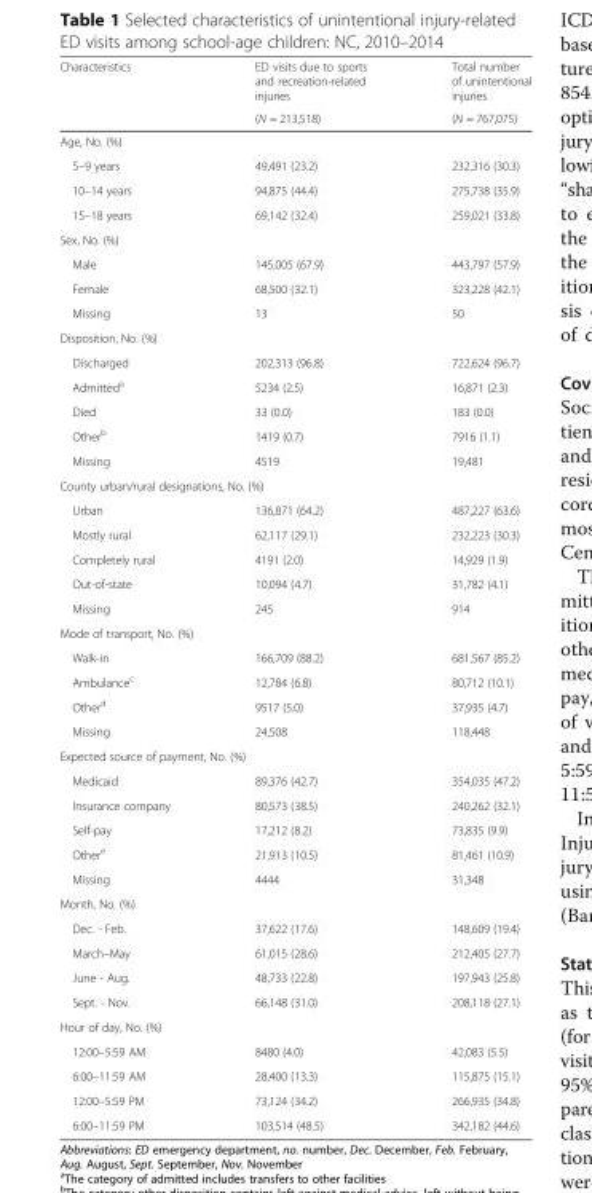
<table><thead><tr><td rowspan="2">Characteristics</td><td rowspan="2">ED visits due to sports and recreation-related injuries (N = 213,518)</td><td rowspan="2">Total number of unintentional injuries (N = 767,075)</td></tr><tr></tr></thead><tbody><tr><td colspan="3">Age, No. (%)</td></tr><tr><td>5–9 years</td><td>49,491 (23.2)</td><td>232,316 (30.3)</td></tr><tr><td>10–14 years</td><td>94,875 (44.4)</td><td>275,738 (35.9)</td></tr><tr><td>15–18 years</td><td>69,142 (32.4)</td><td>259,021 (33.8)</td></tr><tr><td colspan="3">Sex, No. (%)</td></tr><tr><td>Male</td><td>145,005 (67.9)</td><td>443,797 (57.9)</td></tr><tr><td>Female</td><td>68,500 (32.1)</td><td>323,228 (42.1)</td></tr><tr><td>Missing</td><td>13</td><td>50</td></tr><tr><td colspan="3">Disposition, No. (%)</td></tr><tr><td>Discharged</td><td>202,313 (96.8)</td><td>722,624 (96.7)</td></tr><tr><td>Admitted<sup>a</sup></td><td>5234 (2.5)</td><td>16,871 (2.3)</td></tr><tr><td>Died</td><td>33 (0.0)</td><td>183 (0.0)</td></tr><tr><td>Other<sup>b</sup></td><td>1419 (0.7)</td><td>7916 (1.1)</td></tr><tr><td>Missing</td><td>4519</td><td>19,481</td></tr><tr><td colspan="3">County urban/rural designations, No. (%)</td></tr><tr><td>Urban</td><td>136,871 (64.2)</td><td>487,227 (63.6)</td></tr><tr><td>Mostly rural</td><td>62,117 (29.1)</td><td>232,223 (30.3)</td></tr><tr><td>Completely rural</td><td>4191 (2.0)</td><td>14,929 (1.9)</td></tr><tr><td>Out-of-state</td><td>10,094 (4.7)</td><td>31,782 (4.1)</td></tr><tr><td>Missing</td><td>245</td><td>914</td></tr><tr><td colspan="3">Mode of transport, No. (%)</td></tr><tr><td>Walk-in</td><td>166,709 (88.2)</td><td>681,567 (85.2)</td></tr><tr><td>Ambulance<sup>c</sup></td><td>12,784 (6.8)</td><td>80,712 (10.1)</td></tr><tr><td>Other<sup>d</sup></td><td>9517 (5.0)</td><td>37,935 (4.7)</td></tr><tr><td>Missing</td><td>24,508</td><td>118,448</td></tr><tr><td colspan="3">Expected source of payment, No. (%)</td></tr><tr><td>Medicaid</td><td>89,376 (42.7)</td><td>354,035 (47.2)</td></tr><tr><td>Insurance company</td><td>80,573 (38.5)</td><td>240,262 (32.1)</td></tr><tr><td>Self-pay</td><td>17,212 (8.2)</td><td>73,835 (9.9)</td></tr><tr><td>Other<sup>e</sup></td><td>21,913 (10.5)</td><td>81,461 (10.9)</td></tr><tr><td>Missing</td><td>4444</td><td>31,348</td></tr><tr><td colspan="3">Month, No. (%)</td></tr><tr><td>Dec. - Feb.</td><td>37,622 (17.6)</td><td>148,609 (19.4)</td></tr><tr><td>March–May</td><td>61,015 (28.6)</td><td>212,405 (27.7)</td></tr><tr><td>June - Aug.</td><td>48,733 (22.8)</td><td>197,943 (25.8)</td></tr><tr><td>Sept. - Nov.</td><td>66,148 (31.0)</td><td>208,118 (27.1)</td></tr><tr><td colspan="3">Hour of day, No. (%)</td></tr><tr><td>12:00–5:59 AM</td><td>8480 (4.0)</td><td>42,083 (5.5)</td></tr><tr><td>6:00–11:59 AM</td><td>28,400 (13.3)</td><td>115,875 (15.1)</td></tr><tr><td>12:00–5:59 PM</td><td>73,124 (34.2)</td><td>266,935 (34.8)</td></tr><tr><td>6:00–11:59 PM</td><td>103,514 (48.5)</td><td>342,182 (44.6)</td></tr></tbody></table>